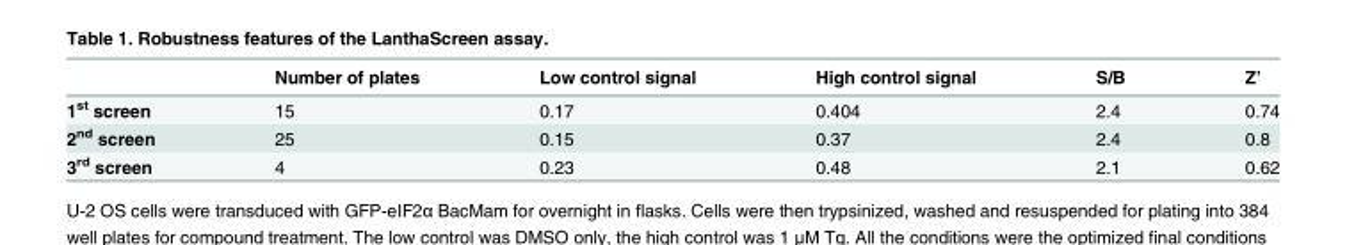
<table><thead><tr><td></td><td>Number of plates</td><td>Low control signal</td><td>High control signal</td><td>S/B</td><td>Z’</td></tr></thead><tbody><tr><td>1<sup>st</sup> screen</td><td>15</td><td>0.17</td><td>0.404</td><td>2.4</td><td>0.74</td></tr><tr><td>2<sup>nd</sup> screen</td><td>25</td><td>0.15</td><td>0.37</td><td>2.4</td><td>0.8</td></tr><tr><td>3<sup>rd</sup> screen</td><td>4</td><td>0.23</td><td>0.48</td><td>2.1</td><td>0.62</td></tr></tbody></table>